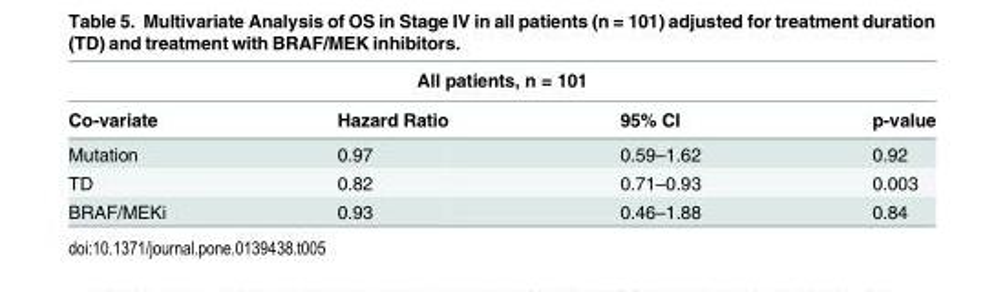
<table><thead><tr><td colspan="4">All patients, n = 101</td></tr><tr><td>Co-variate</td><td>Hazard Ratio</td><td>95% CI</td><td>p-value</td></tr></thead><tbody><tr><td>Mutation</td><td>0.97</td><td>0.59–1.62</td><td>0.92</td></tr><tr><td>TD</td><td>0.82</td><td>0.71–0.93</td><td>0.003</td></tr><tr><td>BRAF/MEKi</td><td>0.93</td><td>0.46–1.88</td><td>0.84</td></tr></tbody></table>